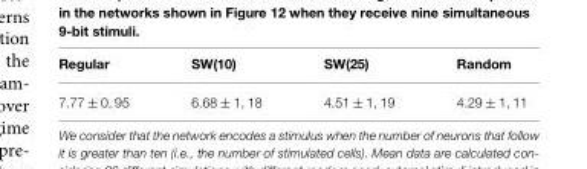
<table><thead><tr><td>Regular</td><td>SW(10)</td><td>SW(25)</td><td>Random</td></tr></thead><tbody><tr><td>7.77 ± 0, 95</td><td>6.68 ± 1, 18</td><td>4.51 ± 1, 19</td><td>4.29 ± 1, 11</td></tr></tbody></table>